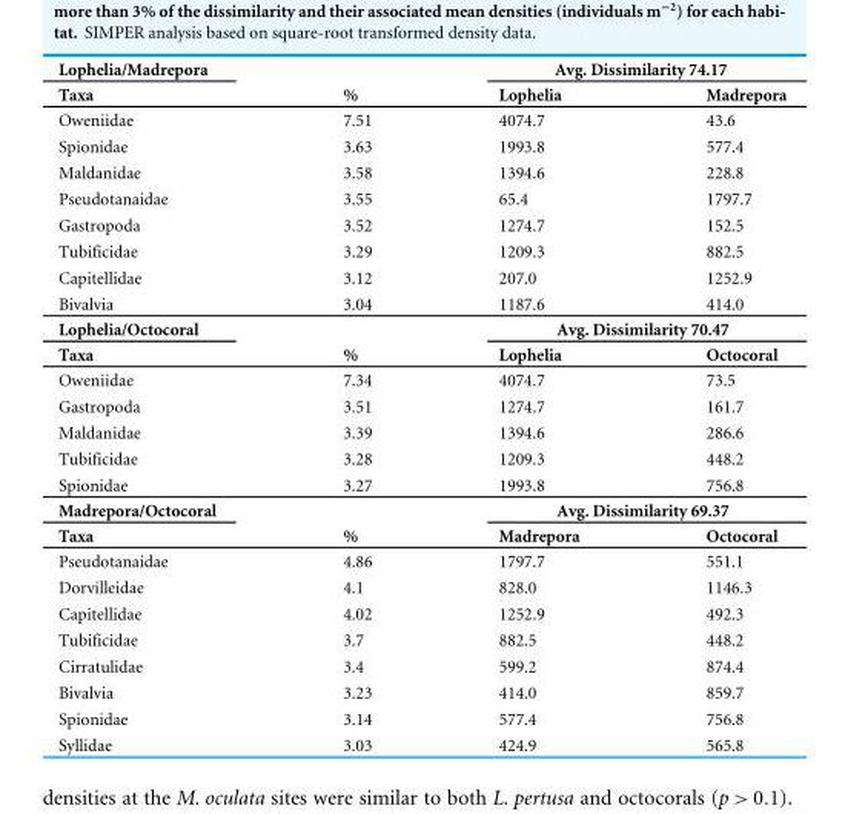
<table><tbody><tr><td>Lophelia/Madrepora</td><td></td><td colspan="2">Avg. Dissimilarity 74.17</td></tr><tr><td>Taxa</td><td>%</td><td>Lophelia</td><td>Madrepora</td></tr><tr><td>Oweniidae</td><td>7.51</td><td>4074.7</td><td>43.6</td></tr><tr><td>Spionidae</td><td>3.63</td><td>1993.8</td><td>577.4</td></tr><tr><td>Maldanidae</td><td>3.58</td><td>1394.6</td><td>228.8</td></tr><tr><td>Pseudotanaidae</td><td>3.55</td><td>65.4</td><td>1797.7</td></tr><tr><td>Gastropoda</td><td>3.52</td><td>1274.7</td><td>152.5</td></tr><tr><td>Tubificidae</td><td>3.29</td><td>1209.3</td><td>882.5</td></tr><tr><td>Capitellidae</td><td>3.12</td><td>207.0</td><td>1252.9</td></tr><tr><td>Bivalvia</td><td>3.04</td><td>1187.6</td><td>414.0</td></tr><tr><td>Lophelia/Octocoral</td><td></td><td colspan="2">Avg. Dissimilarity 70.47</td></tr><tr><td>Taxa</td><td>%</td><td>Lophelia</td><td>Octocoral</td></tr><tr><td>Oweniidae</td><td>7.34</td><td>4074.7</td><td>73.5</td></tr><tr><td>Gastropoda</td><td>3.51</td><td>1274.7</td><td>161.7</td></tr><tr><td>Maldanidae</td><td>3.39</td><td>1394.6</td><td>286.6</td></tr><tr><td>Tubificidae</td><td>3.28</td><td>1209.3</td><td>448.2</td></tr><tr><td>Spionidae</td><td>3.27</td><td>1993.8</td><td>756.8</td></tr><tr><td>Madrepora/Octocoral</td><td></td><td colspan="2">Avg. Dissimilarity 69.37</td></tr><tr><td>Taxa</td><td>%</td><td>Madrepora</td><td>Octocoral</td></tr><tr><td>Pseudotanaidae</td><td>4.86</td><td>1797.7</td><td>551.1</td></tr><tr><td>Dorvilleidae</td><td>4.1</td><td>828.0</td><td>1146.3</td></tr><tr><td>Capitellidae</td><td>4.02</td><td>1252.9</td><td>492.3</td></tr><tr><td>Tubificidae</td><td>3.7</td><td>882.5</td><td>448.2</td></tr><tr><td>Cirratulidae</td><td>3.4</td><td>599.2</td><td>874.4</td></tr><tr><td>Bivalvia</td><td>3.23</td><td>414.0</td><td>859.7</td></tr><tr><td>Spionidae</td><td>3.14</td><td>577.4</td><td>756.8</td></tr><tr><td>Syllidae</td><td>3.03</td><td>424.9</td><td>565.8</td></tr></tbody></table>